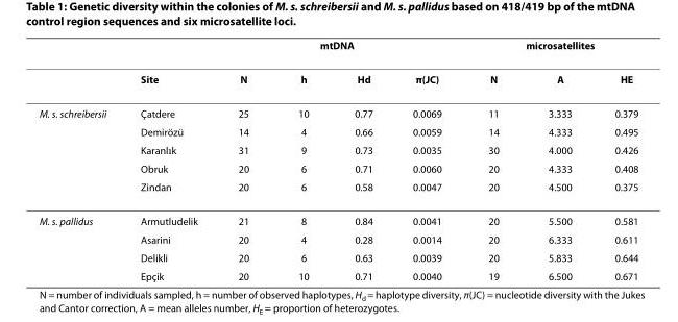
<table><thead><tr><td rowspan="2"></td><td rowspan="2">Site</td><td colspan="4">mtDNA</td><td colspan="3">microsatellites</td></tr><tr><td>N</td><td>h</td><td>H<sub>d</sub></td><td>π(JC)</td><td>N</td><td>A</td><td>H<sub>E</sub></td></tr></thead><tbody><tr><td rowspan="5">M. s. schreibersii</td><td>Çatdere</td><td>25</td><td>10</td><td>0.77</td><td>0.0069</td><td>11</td><td>3.333</td><td>0.379</td></tr><tr><td>Demirözü</td><td>14</td><td>4</td><td>0.66</td><td>0.0059</td><td>14</td><td>4.333</td><td>0.495</td></tr><tr><td>Karanlık</td><td>31</td><td>9</td><td>0.73</td><td>0.0035</td><td>30</td><td>4.000</td><td>0.426</td></tr><tr><td>Obruk</td><td>20</td><td>6</td><td>0.71</td><td>0.0060</td><td>20</td><td>4.333</td><td>0.408</td></tr><tr><td>Zindan</td><td>20</td><td>6</td><td>0.58</td><td>0.0047</td><td>20</td><td>4.500</td><td>0.375</td></tr><tr><td rowspan="4">M. s. pallidus</td><td>Armutludelik</td><td>21</td><td>8</td><td>0.84</td><td>0.0041</td><td>20</td><td>5.500</td><td>0.581</td></tr><tr><td>Asarini</td><td>20</td><td>4</td><td>0.28</td><td>0.0014</td><td>20</td><td>6.333</td><td>0.611</td></tr><tr><td>Delikli</td><td>20</td><td>6</td><td>0.63</td><td>0.0039</td><td>20</td><td>5.833</td><td>0.644</td></tr><tr><td>Epçik</td><td>20</td><td>10</td><td>0.71</td><td>0.0040</td><td>19</td><td>6.500</td><td>0.671</td></tr></tbody></table>